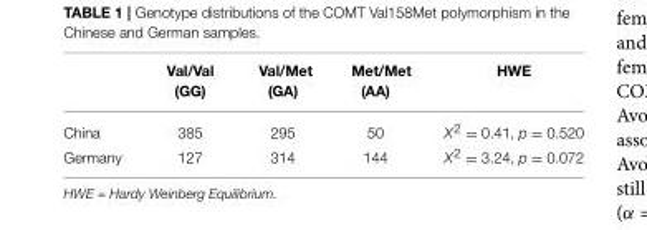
<table><thead><tr><td></td><td>Val/Val (GG)</td><td>Val/Met (GA)</td><td>Met/Met (AA)</td><td>HWE</td></tr></thead><tbody><tr><td>China</td><td>385</td><td>295</td><td>50</td><td>X<sup>2</sup> = 0.41, p = 0.520</td></tr><tr><td>Germany</td><td>127</td><td>314</td><td>144</td><td>X<sup>2</sup> = 3.24, p = 0.072</td></tr></tbody></table>